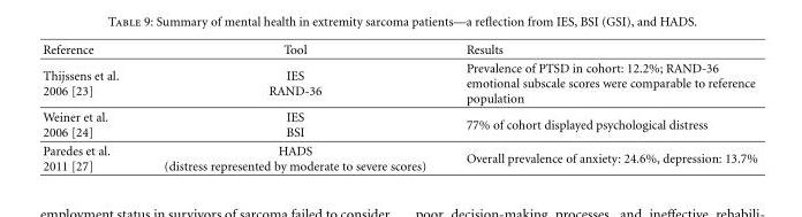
<table><thead><tr><td>Reference</td><td>Tool</td><td>Results</td></tr></thead><tbody><tr><td>Thijssens et al. 2006 [23]</td><td>IES RAND-36</td><td>Prevalence of PTSD in cohort: 12.2%; RAND-36 emotional subscale scores were comparable to reference population</td></tr><tr><td>Weiner et al. 2006 [24]</td><td>IES BSI</td><td>77% of cohort displayed psychological distress</td></tr><tr><td>Paredes et al. 2011 [27]</td><td>HADS (distress represented by moderate to severe scores)</td><td>Overall prevalence of anxiety: 24.6%, depression: 13.7%</td></tr></tbody></table>